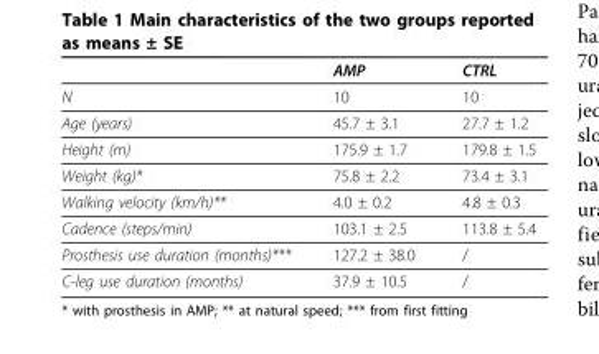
<table><thead><tr><td></td><td>AMP</td><td>CTRL</td></tr></thead><tbody><tr><td>N</td><td>10</td><td>10</td></tr><tr><td>Age (years)</td><td>45.7 ± 3.1</td><td>27.7 ± 1.2</td></tr><tr><td>Height (m)</td><td>175.9 ± 1.7</td><td>179.8 ± 1.5</td></tr><tr><td>Weight (kg)*</td><td>75.8 ± 2.2</td><td>73.4 ± 3.1</td></tr><tr><td>Walking velocity (km/h)**</td><td>4.0 ± 0.2</td><td>4.8 ± 0.3</td></tr><tr><td>Cadence (steps/min)</td><td>103.1 ± 2.5</td><td>113.8 ± 5.4</td></tr><tr><td>Prosthesis use duration (months)***</td><td>127.2 ± 38.0</td><td>/</td></tr><tr><td>C-leg use duration (months)</td><td>37.9 ± 10.5</td><td>/</td></tr></tbody></table>